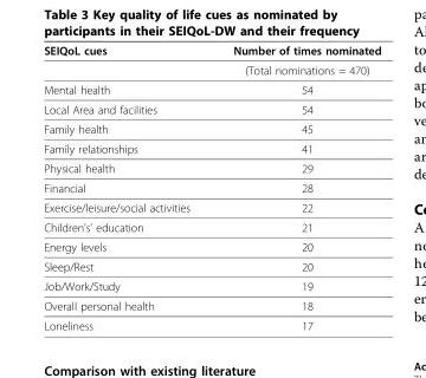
<table><thead><tr><td>SEIQoL cues</td><td>Number of times nominated</td></tr></thead><tbody><tr><td></td><td>(Total nominations = 470)</td></tr><tr><td>Mental health</td><td>54</td></tr><tr><td>Local Area and facilities</td><td>54</td></tr><tr><td>Family health</td><td>45</td></tr><tr><td>Family relationships</td><td>41</td></tr><tr><td>Physical health</td><td>29</td></tr><tr><td>Financial</td><td>28</td></tr><tr><td>Exercise/leisure/social activities</td><td>22</td></tr><tr><td>Children’s’ education</td><td>21</td></tr><tr><td>Energy levels</td><td>20</td></tr><tr><td>Sleep/Rest</td><td>20</td></tr><tr><td>Job/Work/Study</td><td>19</td></tr><tr><td>Overall personal health</td><td>18</td></tr><tr><td>Loneliness</td><td>17</td></tr></tbody></table>